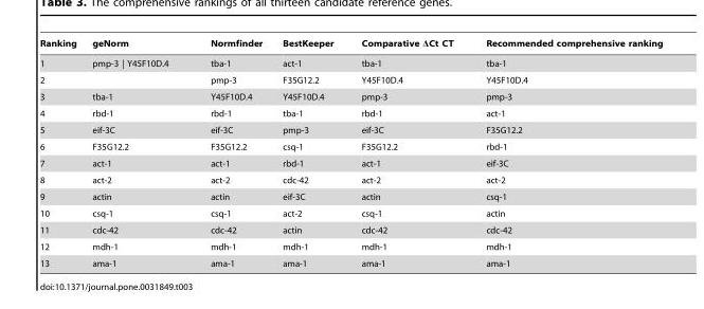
<table><thead><tr><td>Ranking</td><td>geNorm</td><td>Normfinder</td><td>BestKeeper</td><td>Comparative ΔCt CT</td><td>Recommended comprehensive ranking</td></tr></thead><tbody><tr><td>1</td><td>pmp-3 | Y45F10D.4</td><td>tba-1</td><td>act-1</td><td>tba-1</td><td>tba-1</td></tr><tr><td>2</td><td></td><td>pmp-3</td><td>F35G12.2</td><td>Y45F10D.4</td><td>Y45F10D.4</td></tr><tr><td>3</td><td>tba-1</td><td>Y45F10D.4</td><td>Y45F10D.4</td><td>pmp-3</td><td>pmp-3</td></tr><tr><td>4</td><td>rbd-1</td><td>rbd-1</td><td>tba-1</td><td>rbd-1</td><td>act-1</td></tr><tr><td>5</td><td>eif-3C</td><td>eif-3C</td><td>pmp-3</td><td>eif-3C</td><td>F35G12.2</td></tr><tr><td>6</td><td>F35G12.2</td><td>F35G12.2</td><td>csq-1</td><td>F35G12.2</td><td>rbd-1</td></tr><tr><td>7</td><td>act-1</td><td>act-1</td><td>rbd-1</td><td>act-1</td><td>eif-3C</td></tr><tr><td>8</td><td>act-2</td><td>act-2</td><td>cdc-42</td><td>act-2</td><td>act-2</td></tr><tr><td>9</td><td>actin</td><td>actin</td><td>eif-3C</td><td>actin</td><td>csq-1</td></tr><tr><td>10</td><td>csq-1</td><td>csq-1</td><td>act-2</td><td>csq-1</td><td>actin</td></tr><tr><td>11</td><td>cdc-42</td><td>cdc-42</td><td>actin</td><td>cdc-42</td><td>cdc-42</td></tr><tr><td>12</td><td>mdh-1</td><td>mdh-1</td><td>mdh-1</td><td>mdh-1</td><td>mdh-1</td></tr><tr><td>13</td><td>ama-1</td><td>ama-1</td><td>ama-1</td><td>ama-1</td><td>ama-1</td></tr></tbody></table>